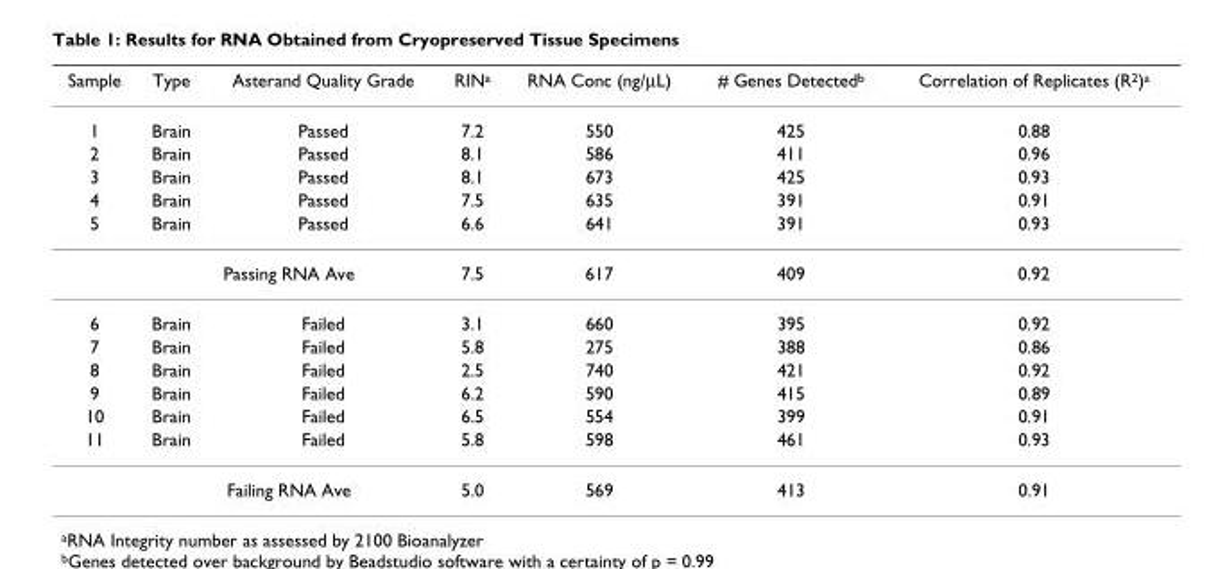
<table><thead><tr><td>Sample</td><td>Type</td><td>Asterand Quality Grade</td><td>RINa</td><td>RNA Conc (ng/μL)</td><td># Genes Detectedb</td><td>Correlation of Replicates (R2)a</td></tr></thead><tbody><tr><td>1</td><td>Brain</td><td>Passed</td><td>7.2</td><td>550</td><td>425</td><td>0.88</td></tr><tr><td>2</td><td>Brain</td><td>Passed</td><td>8.1</td><td>586</td><td>411</td><td>0.96</td></tr><tr><td>3</td><td>Brain</td><td>Passed</td><td>8.1</td><td>673</td><td>425</td><td>0.93</td></tr><tr><td>4</td><td>Brain</td><td>Passed</td><td>7.5</td><td>635</td><td>391</td><td>0.91</td></tr><tr><td rowspan="2">5</td><td>Brain</td><td>Passed</td><td>6.6</td><td>641</td><td>391</td><td>0.93</td></tr><tr><td colspan="2">Passing RNA Ave</td><td>7.5</td><td>617</td><td>409</td><td>0.92</td></tr><tr><td>6</td><td>Brain</td><td>Failed</td><td>3.1</td><td>660</td><td>395</td><td>0.92</td></tr><tr><td>7</td><td>Brain</td><td>Failed</td><td>5.8</td><td>275</td><td>388</td><td>0.86</td></tr><tr><td>8</td><td>Brain</td><td>Failed</td><td>2.5</td><td>740</td><td>421</td><td>0.92</td></tr><tr><td>9</td><td>Brain</td><td>Failed</td><td>6.2</td><td>590</td><td>415</td><td>0.89</td></tr><tr><td>10</td><td>Brain</td><td>Failed</td><td>6.5</td><td>554</td><td>399</td><td>0.91</td></tr><tr><td rowspan="2">11</td><td>Brain</td><td>Failed</td><td>5.8</td><td>598</td><td>461</td><td>0.93</td></tr><tr><td colspan="2">Failing RNA Ave</td><td>5.0</td><td>569</td><td>413</td><td>0.91</td></tr></tbody></table>